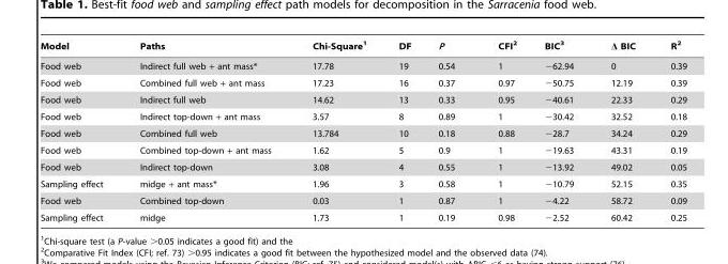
<table><thead><tr><td>Model</td><td>Paths</td><td>Chi-Square<sup>1</sup></td><td>DF</td><td>P</td><td>CFI<sup>2</sup></td><td>BIC<sup>3</sup></td><td>Δ BIC</td><td>R<sup>2</sup></td></tr></thead><tbody><tr><td>Food web</td><td>Indirect full web + ant mass*</td><td>17.78</td><td>19</td><td>0.54</td><td>1</td><td>−62.94</td><td>0</td><td>0.39</td></tr><tr><td>Food web</td><td>Combined full web + ant mass</td><td>17.23</td><td>16</td><td>0.37</td><td>0.97</td><td>−50.75</td><td>12.19</td><td>0.39</td></tr><tr><td>Food web</td><td>Indirect full web</td><td>14.62</td><td>13</td><td>0.33</td><td>0.95</td><td>−40.61</td><td>22.33</td><td>0.29</td></tr><tr><td>Food web</td><td>Indirect top-down + ant mass</td><td>3.57</td><td>8</td><td>0.89</td><td>1</td><td>−30.42</td><td>32.52</td><td>0.18</td></tr><tr><td>Food web</td><td>Combined full web</td><td>13.784</td><td>10</td><td>0.18</td><td>0.88</td><td>−28.7</td><td>34.24</td><td>0.29</td></tr><tr><td>Food web</td><td>Combined top-down + ant mass</td><td>1.62</td><td>5</td><td>0.9</td><td>1</td><td>−19.63</td><td>43.31</td><td>0.19</td></tr><tr><td>Food web</td><td>Indirect top-down</td><td>3.08</td><td>4</td><td>0.55</td><td>1</td><td>−13.92</td><td>49.02</td><td>0.05</td></tr><tr><td>Sampling effect</td><td>midge + ant mass*</td><td>1.96</td><td>3</td><td>0.58</td><td>1</td><td>−10.79</td><td>52.15</td><td>0.35</td></tr><tr><td>Food web</td><td>Combined top-down</td><td>0.03</td><td>1</td><td>0.87</td><td>1</td><td>−4.22</td><td>58.72</td><td>0.09</td></tr><tr><td>Sampling effect</td><td>midge</td><td>1.73</td><td>1</td><td>0.19</td><td>0.98</td><td>−2.52</td><td>60.42</td><td>0.25</td></tr></tbody></table>